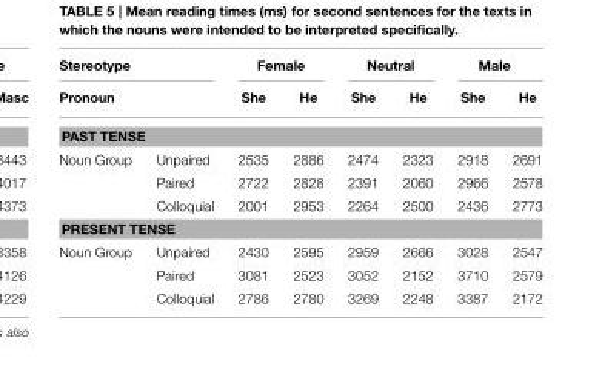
<table><thead><tr><td rowspan="2" colspan="2">Stereotype Pronoun</td><td colspan="2">Female</td><td colspan="2">Neutral</td><td colspan="2">Male</td></tr><tr><td>She</td><td>He</td><td>She</td><td>He</td><td>She</td><td>He</td></tr><tr><td colspan="8">PAST TENSE</td></tr><tr><td>Noun Group</td><td>Unpaired</td><td>2535</td><td>2886</td><td>2474</td><td>2323</td><td>2918</td><td>2691</td></tr></thead><tbody><tr><td></td><td>Paired</td><td>2722</td><td>2828</td><td>2391</td><td>2060</td><td>2966</td><td>2578</td></tr><tr><td></td><td>Colloquial</td><td>2001</td><td>2953</td><td>2264</td><td>2500</td><td>2436</td><td>2773</td></tr><tr><td colspan="8">PRESENT TENSE</td></tr><tr><td rowspan="3">Noun Group</td><td>Unpaired</td><td>2430</td><td>2595</td><td>2959</td><td>2666</td><td>3028</td><td>2547</td></tr><tr><td>Paired</td><td>3081</td><td>2523</td><td>3052</td><td>2152</td><td>3710</td><td>2579</td></tr><tr><td>Colloquial</td><td>2786</td><td>2780</td><td>3269</td><td>2248</td><td>3387</td><td>2172</td></tr></tbody></table>